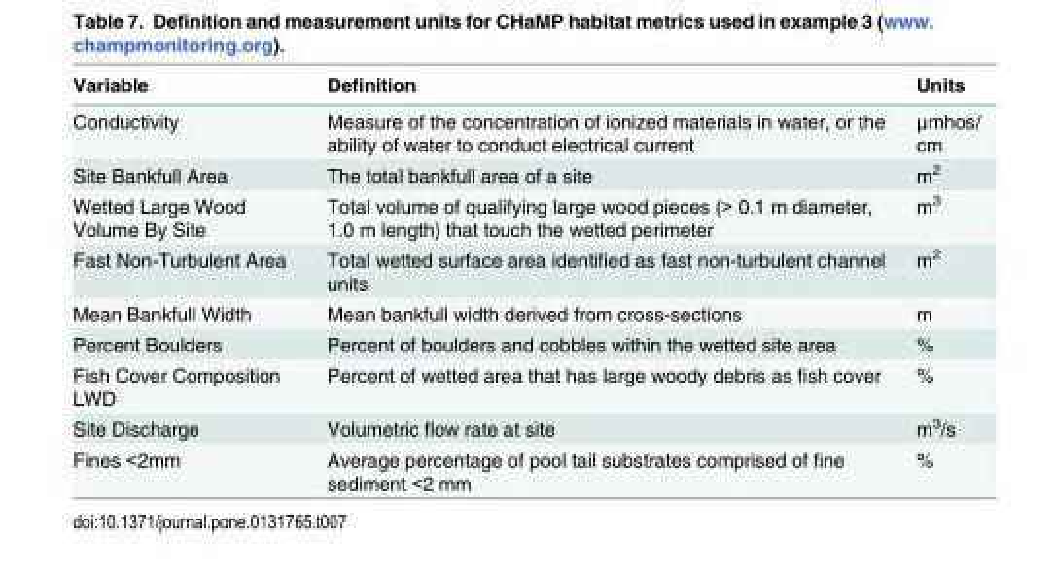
<table><thead><tr><td>Variable</td><td>Definition</td><td>Units</td></tr></thead><tbody><tr><td>Conductivity</td><td>Measure of the concentration of ionized materials in water, or the ability of water to conduct electrical current</td><td>μmhos/ cm</td></tr><tr><td>Site Bankfull Area</td><td>The total bankfull area of a site</td><td>m<sup>2</sup></td></tr><tr><td>Wetted Large Wood Volume By Site</td><td>Total volume of qualifying large wood pieces (&gt; 0.1 m diameter, 1.0 m length) that touch the wetted perimeter</td><td>m<sup>3</sup></td></tr><tr><td>Fast Non-Turbulent Area</td><td>Total wetted surface area identified as fast non-turbulent channel units</td><td>m<sup>2</sup></td></tr><tr><td>Mean Bankfull Width</td><td>Mean bankfull width derived from cross-sections</td><td>m</td></tr><tr><td>Percent Boulders</td><td>Percent of boulders and cobbles within the wetted site area</td><td>%</td></tr><tr><td>Fish Cover Composition LWD</td><td>Percent of wetted area that has large woody debris as fish cover</td><td>%</td></tr><tr><td>Site Discharge</td><td>Volumetric flow rate at site</td><td>m<sup>3</sup>/s</td></tr><tr><td>Fines &lt;2mm</td><td>Average percentage of pool tail substrates comprised of fine sediment &lt;2 mm</td><td>%</td></tr></tbody></table>